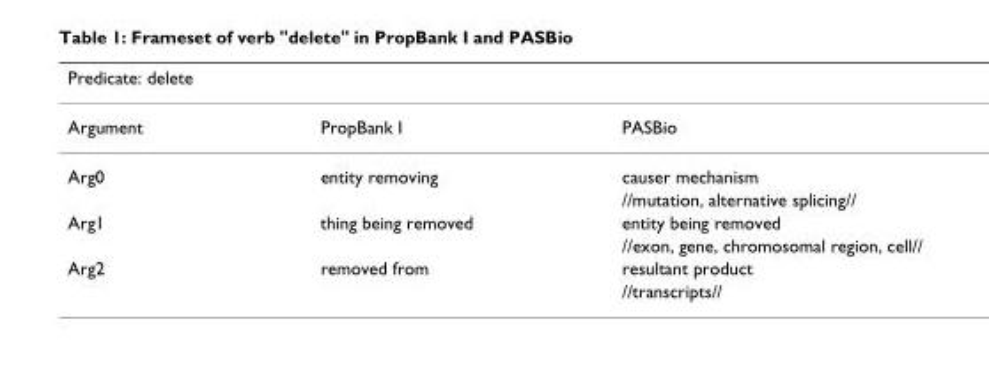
<table><thead><tr><td>Predicate: delete</td><td></td><td></td></tr></thead><tbody><tr><td>Argument</td><td>PropBank I</td><td>PASBio</td></tr><tr><td rowspan="2">Arg0</td><td>entity removing</td><td>causer mechanism</td></tr><tr><td></td><td>//mutation, alternative splicing//</td></tr><tr><td rowspan="2">Arg1</td><td>thing being removed</td><td>entity being removed</td></tr><tr><td></td><td>//exon, gene, chromosomal region, cell//</td></tr><tr><td rowspan="2">Arg2</td><td>removed from</td><td>resultant product</td></tr><tr><td></td><td>//transcripts//</td></tr></tbody></table>